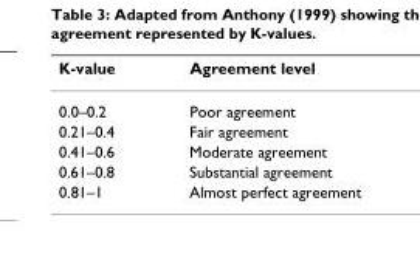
<table><thead><tr><td>K-value</td><td>Agreement level</td></tr></thead><tbody><tr><td>0.0–0.2</td><td>Poor agreement</td></tr><tr><td>0.21–0.4</td><td>Fair agreement</td></tr><tr><td>0.41–0.6</td><td>Moderate agreement</td></tr><tr><td>0.61–0.8</td><td>Substantial agreement</td></tr><tr><td>0.81–1</td><td>Almost perfect agreement</td></tr></tbody></table>